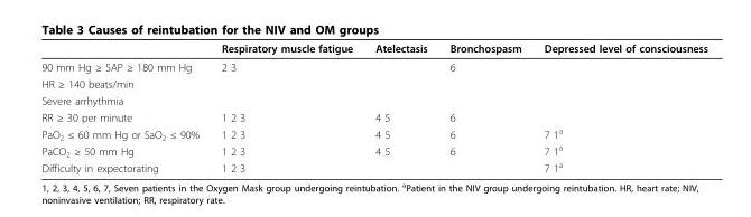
<table><thead><tr><td></td><td>Respiratory muscle fatigue</td><td>Atelectasis</td><td>Bronchospasm</td><td>Depressed level of consciousness</td></tr></thead><tbody><tr><td>90 mm Hg ≥ SAP ≥ 180 mm Hg</td><td>2 3</td><td></td><td>6</td><td></td></tr><tr><td colspan="5">HR ≥ 140 beats/min</td></tr><tr><td colspan="5">Severe arrhythmia</td></tr><tr><td>RR ≥ 30 per minute</td><td>1 2 3</td><td>4 5</td><td>6</td><td></td></tr><tr><td>PaO<sub>2</sub> ≤ 60 mm Hg or SaO<sub>2</sub> ≤ 90%</td><td>1 2 3</td><td>4 5</td><td>6</td><td>7 1<sup>a</sup></td></tr><tr><td>PaCO<sub>2</sub> ≥ 50 mm Hg</td><td>1 2 3</td><td>4 5</td><td>6</td><td>7 1<sup>a</sup></td></tr><tr><td>Difficulty in expectorating</td><td>1 2 3</td><td></td><td></td><td>7 1<sup>a</sup></td></tr></tbody></table>